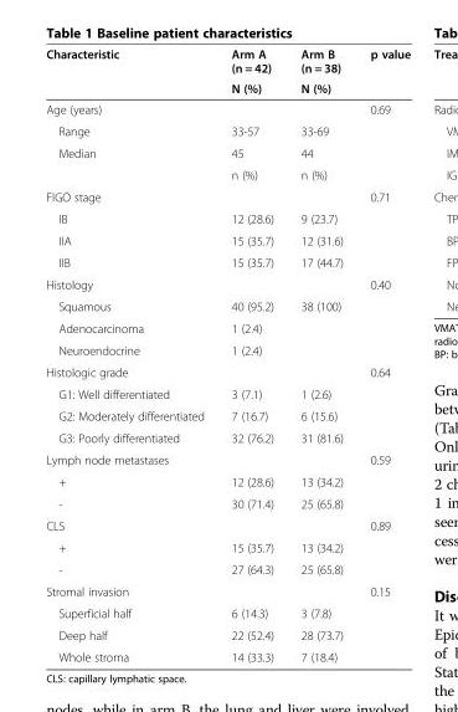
<table><thead><tr><td rowspan="2">Characteristic</td><td rowspan="2">Arm A (n = 42) N (%)</td><td rowspan="2">Arm B (n = 38) N (%)</td><td rowspan="2">p value</td></tr><tr></tr></thead><tbody><tr><td>Age (years)</td><td></td><td></td><td>0.69</td></tr><tr><td>Range</td><td>33-57</td><td>33-69</td><td></td></tr><tr><td rowspan="2">Median</td><td>45</td><td>44</td><td></td></tr><tr><td>n (%)</td><td>n (%)</td><td></td></tr><tr><td>FIGO stage</td><td></td><td></td><td>0.71</td></tr><tr><td>IB</td><td>12 (28.6)</td><td>9 (23.7)</td><td></td></tr><tr><td>IIA</td><td>15 (35.7)</td><td>12 (31.6)</td><td></td></tr><tr><td>IIB</td><td>15 (35.7)</td><td>17 (44.7)</td><td></td></tr><tr><td>Histology</td><td></td><td></td><td>0.40</td></tr><tr><td>Squamous</td><td>40 (95.2)</td><td>38 (100)</td><td></td></tr><tr><td>Adenocarcinoma</td><td>1 (2.4)</td><td></td><td></td></tr><tr><td>Neuroendocrine</td><td>1 (2.4)</td><td></td><td></td></tr><tr><td colspan="2">Histologic grade</td><td></td><td>0.64</td></tr><tr><td>G1: Well differentiated</td><td>3 (7.1)</td><td>1 (2.6)</td><td></td></tr><tr><td>G2: Moderately differentiated</td><td>7 (16.7)</td><td>6 (15.6)</td><td></td></tr><tr><td>G3: Poorly differentiated</td><td>32 (76.2)</td><td>31 (81.6)</td><td></td></tr><tr><td colspan="2">Lymph node metastases</td><td></td><td>0.59</td></tr><tr><td>+</td><td>12 (28.6)</td><td>13 (34.2)</td><td></td></tr><tr><td>-</td><td>30 (71.4)</td><td>25 (65.8)</td><td></td></tr><tr><td>CLS</td><td></td><td></td><td>0.89</td></tr><tr><td>+</td><td>15 (35.7)</td><td>13 (34.2)</td><td></td></tr><tr><td>-</td><td>27 (64.3)</td><td>25 (65.8)</td><td></td></tr><tr><td colspan="2">Stromal invasion</td><td></td><td>0.15</td></tr><tr><td>Superficial half</td><td>6 (14.3)</td><td>3 (7.8)</td><td></td></tr><tr><td>Deep half</td><td>22 (52.4)</td><td>28 (73.7)</td><td></td></tr><tr><td>Whole stroma</td><td>14 (33.3)</td><td>7 (18.4)</td><td></td></tr></tbody></table>